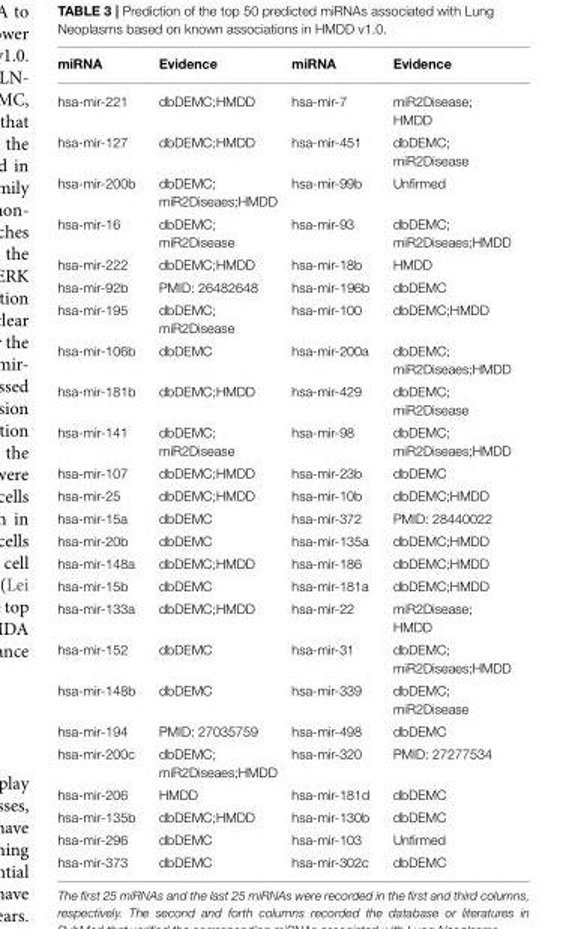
<table><thead><tr><td>miRNA</td><td>Evidence</td><td>miRNA</td><td>Evidence</td></tr></thead><tbody><tr><td>hsa-mir-221</td><td>dbDEMC;HMDD</td><td>hsa-mir-7</td><td>miR2Disease; HMDD</td></tr><tr><td>hsa-mir-127</td><td>dbDEMC;HMDD</td><td>hsa-mir-451</td><td>dbDEMC; miR2Disease</td></tr><tr><td>hsa-mir-200b</td><td>dbDEMC; miR2Diseaes;HMDD</td><td>hsa-mir-99b</td><td>Unfirmed</td></tr><tr><td>hsa-mir-16</td><td>dbDEMC; miR2Disease</td><td>hsa-mir-93</td><td>dbDEMC; miR2Diseaes;HMDD</td></tr><tr><td>hsa-mir-222</td><td>dbDEMC;HMDD</td><td>hsa-mir-18b</td><td>HMDD</td></tr><tr><td>hsa-mir-92b</td><td>PMID: 26482648</td><td>hsa-mir-196b</td><td>dbDEMC</td></tr><tr><td>hsa-mir-195</td><td>dbDEMC; miR2Disease</td><td>hsa-mir-100</td><td>dbDEMC;HMDD</td></tr><tr><td>hsa-mir-106b</td><td>dbDEMC</td><td>hsa-mir-200a</td><td>dbDEMC; miR2Diseaes;HMDD</td></tr><tr><td>hsa-mir-181b</td><td>dbDEMC;HMDD</td><td>hsa-mir-429</td><td>dbDEMC; miR2Disease</td></tr><tr><td>hsa-mir-141</td><td>dbDEMC; miR2Disease</td><td>hsa-mir-98</td><td>dbDEMC; miR2Diseaes;HMDD</td></tr><tr><td>hsa-mir-107</td><td>dbDEMC;HMDD</td><td>hsa-mir-23b</td><td>dbDEMC</td></tr><tr><td>hsa-mir-25</td><td>dbDEMC;HMDD</td><td>hsa-mir-10b</td><td>dbDEMC;HMDD</td></tr><tr><td>hsa-mir-15a</td><td>dbDEMC</td><td>hsa-mir-372</td><td>PMID: 28440022</td></tr><tr><td>hsa-mir-20b</td><td>dbDEMC</td><td>hsa-mir-135a</td><td>dbDEMC;HMDD</td></tr><tr><td>hsa-mir-148a</td><td>dbDEMC;HMDD</td><td>hsa-mir-186</td><td>dbDEMC;HMDD</td></tr><tr><td>hsa-mir-15b</td><td>dbDEMC</td><td>hsa-mir-181a</td><td>dbDEMC;HMDD</td></tr><tr><td>hsa-mir-133a</td><td>dbDEMC;HMDD</td><td>hsa-mir-22</td><td>miR2Disease; HMDD</td></tr><tr><td>hsa-mir-152</td><td>dbDEMC</td><td>hsa-mir-31</td><td>dbDEMC; miR2Diseaes;HMDD</td></tr><tr><td>hsa-mir-148b</td><td>dbDEMC</td><td>hsa-mir-339</td><td>dbDEMC; miR2Disease</td></tr><tr><td>hsa-mir-194</td><td>PMID: 27035759</td><td>hsa-mir-498</td><td>dbDEMC</td></tr><tr><td>hsa-mir-200c</td><td>dbDEMC; miR2Diseaes;HMDD</td><td>hsa-mir-320</td><td>PMID: 27277534</td></tr><tr><td>hsa-mir-206</td><td>HMDD</td><td>hsa-mir-181d</td><td>dbDEMC</td></tr><tr><td>hsa-mir-135b</td><td>dbDEMC;HMDD</td><td>hsa-mir-130b</td><td>dbDEMC</td></tr><tr><td>hsa-mir-296</td><td>dbDEMC</td><td>hsa-mir-103</td><td>Unfirmed</td></tr><tr><td>hsa-mir-373</td><td>dbDEMC</td><td>hsa-mir-302c</td><td>dbDEMC</td></tr></tbody></table>